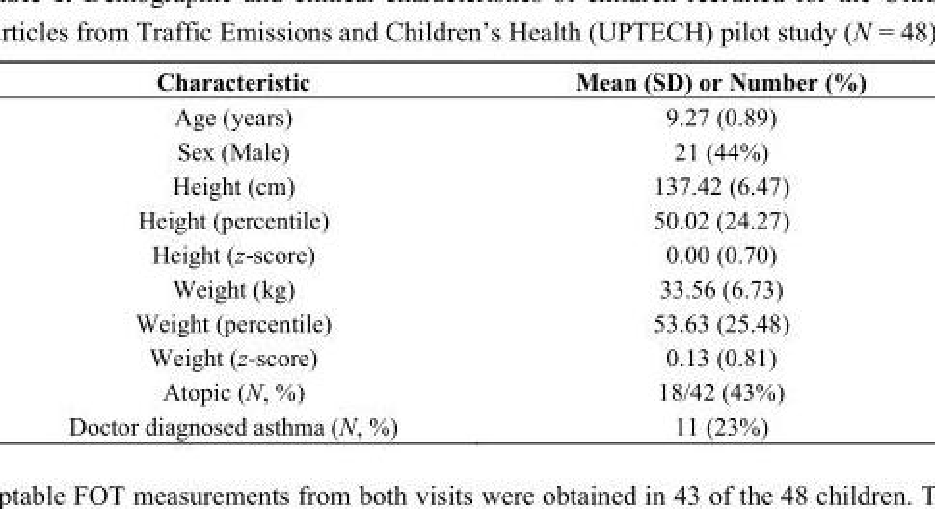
<table><thead><tr><td>Characteristic</td><td>Mean (SD) or Number (%)</td></tr></thead><tbody><tr><td>Age (years)</td><td>9.27 (0.89)</td></tr><tr><td>Sex (Male)</td><td>21 (44%)</td></tr><tr><td>Height (cm)</td><td>137.42 (6.47)</td></tr><tr><td>Height (percentile)</td><td>50.02 (24.27)</td></tr><tr><td>Height (z-score)</td><td>0.00 (0.70)</td></tr><tr><td>Weight (kg)</td><td>33.56 (6.73)</td></tr><tr><td>Weight (percentile)</td><td>53.63 (25.48)</td></tr><tr><td>Weight (z-score)</td><td>0.13 (0.81)</td></tr><tr><td>Atopic (N, %)</td><td>18/42 (43%)</td></tr><tr><td>Doctor diagnosed asthma (N, %)</td><td>11 (23%)</td></tr></tbody></table>